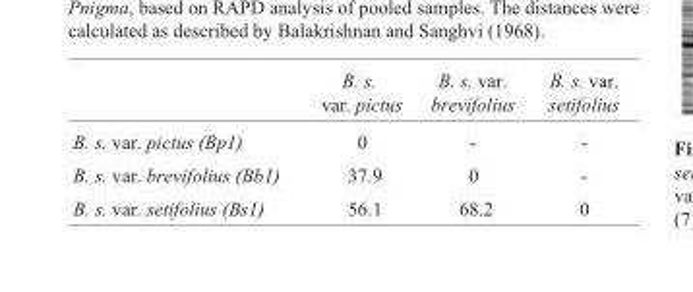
<table><thead><tr><td></td><td>B. s. var. pictus</td><td>B. s. var. brevifolius</td><td>B. s. var. setifolius</td></tr></thead><tbody><tr><td>B. s. var. pictus (Bp1)</td><td>0</td><td>-</td><td>-</td></tr><tr><td>B. s. var. brevifolius (Bb1)</td><td>37.9</td><td>0</td><td>-</td></tr><tr><td>B. s. var. setifolius (Bs1)</td><td>56.1</td><td>68.2</td><td>0</td></tr></tbody></table>